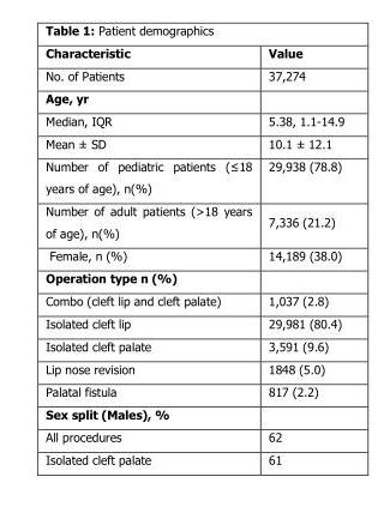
<table><thead><tr><td>Characteristic</td><td>Value</td></tr></thead><tbody><tr><td>No. of Patients</td><td>37,274</td></tr><tr><td colspan="2">Age, yr</td></tr><tr><td>Median, IQR</td><td>5.38, 1.1-14.9</td></tr><tr><td>Mean ± SD</td><td>10.1 ± 12.1</td></tr><tr><td>Number of pediatric patients (≤18 years of age), n(%)</td><td>29,938 (78.8)</td></tr><tr><td>Number of adult patients (&gt;18 years of age), n(%)</td><td>7,336 (21.2)</td></tr><tr><td>Female, n (%)</td><td>14,189 (38.0)</td></tr><tr><td colspan="2">Operation type n (%)</td></tr><tr><td>Combo (cleft lip and cleft palate)</td><td>1,037 (2.8)</td></tr><tr><td>Isolated cleft lip</td><td>29,981 (80.4)</td></tr><tr><td>Isolated cleft palate</td><td>3,591 (9.6)</td></tr><tr><td>Lip nose revision</td><td>1848 (5.0)</td></tr><tr><td>Palatal fistula</td><td>817 (2.2)</td></tr><tr><td colspan="2">Sex split (Males), %</td></tr><tr><td>All procedures</td><td>62</td></tr><tr><td>Isolated cleft palate</td><td>61</td></tr></tbody></table>